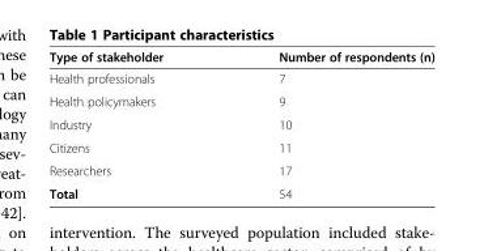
<table><thead><tr><td>Type of stakeholder</td><td>Number of respondents (n)</td></tr></thead><tbody><tr><td>Health professionals</td><td>7</td></tr><tr><td>Health policymakers</td><td>9</td></tr><tr><td>Industry</td><td>10</td></tr><tr><td>Citizens</td><td>11</td></tr><tr><td>Researchers</td><td>17</td></tr><tr><td>Total</td><td>54</td></tr></tbody></table>